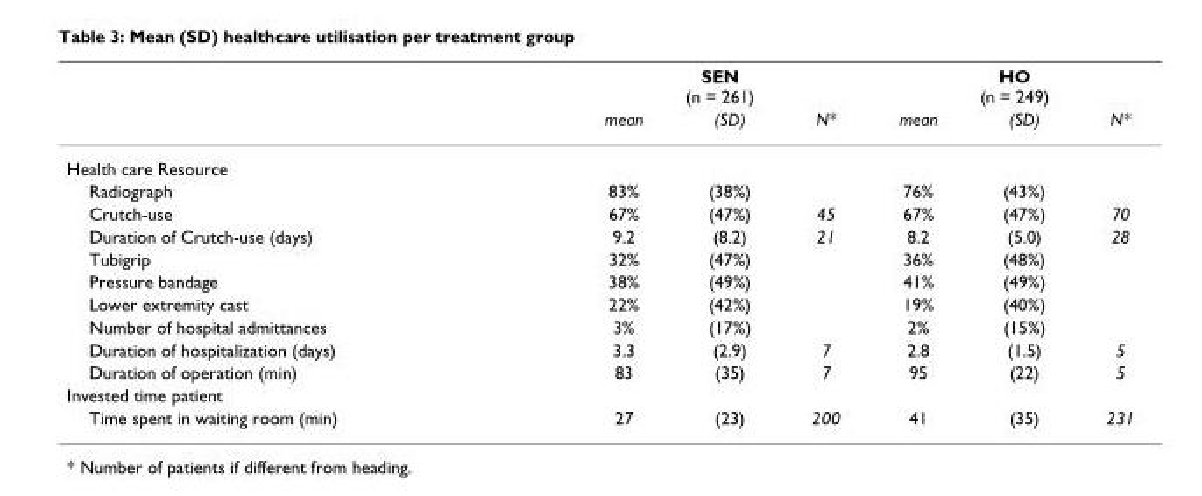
<table><thead><tr><td rowspan="2"></td><td colspan="3">SEN (n = 261)</td><td colspan="3">HO (n = 249)</td></tr><tr><td>mean</td><td>(SD)</td><td>N*</td><td>mean</td><td>(SD)</td><td>N*</td></tr></thead><tbody><tr><td colspan="7">Health care Resource</td></tr><tr><td>Radiograph</td><td>83%</td><td>(38%)</td><td></td><td>76%</td><td>(43%)</td><td></td></tr><tr><td>Crutch-use</td><td>67%</td><td>(47%)</td><td>45</td><td>67%</td><td>(47%)</td><td>70</td></tr><tr><td>Duration of Crutch-use (days)</td><td>9.2</td><td>(8.2)</td><td>21</td><td>8.2</td><td>(5.0)</td><td>28</td></tr><tr><td>Tubigrip</td><td>32%</td><td>(47%)</td><td></td><td>36%</td><td>(48%)</td><td></td></tr><tr><td>Pressure bandage</td><td>38%</td><td>(49%)</td><td></td><td>41%</td><td>(49%)</td><td></td></tr><tr><td>Lower extremity cast</td><td>22%</td><td>(42%)</td><td></td><td>19%</td><td>(40%)</td><td></td></tr><tr><td>Number of hospital admittances</td><td>3%</td><td>(17%)</td><td></td><td>2%</td><td>(15%)</td><td></td></tr><tr><td>Duration of hospitalization (days)</td><td>3.3</td><td>(2.9)</td><td>7</td><td>2.8</td><td>(1.5)</td><td>5</td></tr><tr><td>Duration of operation (min)</td><td>83</td><td>(35)</td><td>7</td><td>95</td><td>(22)</td><td>5</td></tr><tr><td colspan="7">Invested time patient</td></tr><tr><td>Time spent in waiting room (min)</td><td>27</td><td>(23)</td><td>200</td><td>41</td><td>(35)</td><td>231</td></tr></tbody></table>